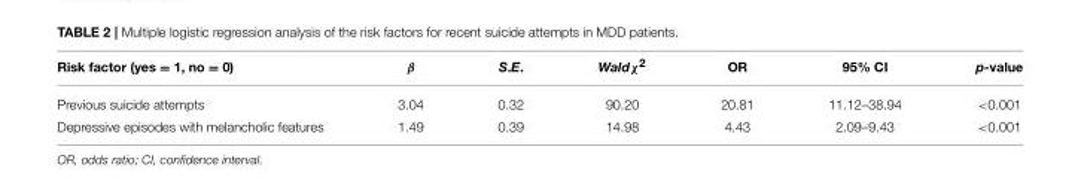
<table><thead><tr><td>Risk factor (yes = 1, no = 0)</td><td>β</td><td>S.E.</td><td>Waldχ<sup>2</sup></td><td>OR</td><td>95% CI</td><td>p-value</td></tr></thead><tbody><tr><td>Previous suicide attempts</td><td>3.04</td><td>0.32</td><td>90.20</td><td>20.81</td><td>11.12–38.94</td><td>&lt;0.001</td></tr><tr><td>Depressive episodes with melancholic features</td><td>1.49</td><td>0.39</td><td>14.98</td><td>4.43</td><td>2.09–9.43</td><td>&lt;0.001</td></tr></tbody></table>